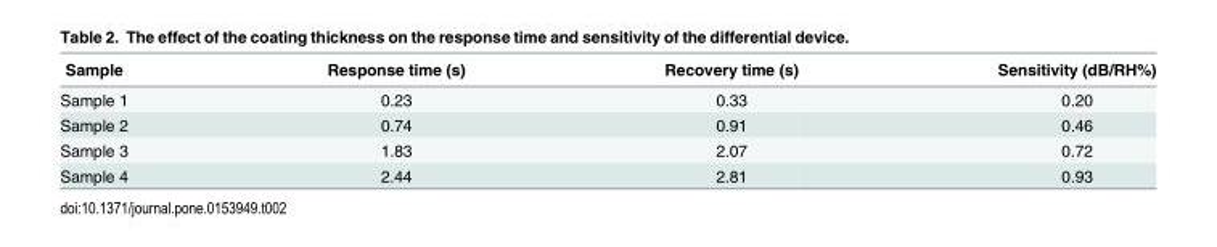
<table><thead><tr><td>Sample</td><td>Response time (s)</td><td>Recovery time (s)</td><td>Sensitivity (dB/RH%)</td></tr></thead><tbody><tr><td>Sample 1</td><td>0.23</td><td>0.33</td><td>0.20</td></tr><tr><td>Sample 2</td><td>0.74</td><td>0.91</td><td>0.46</td></tr><tr><td>Sample 3</td><td>1.83</td><td>2.07</td><td>0.72</td></tr><tr><td>Sample 4</td><td>2.44</td><td>2.81</td><td>0.93</td></tr></tbody></table>